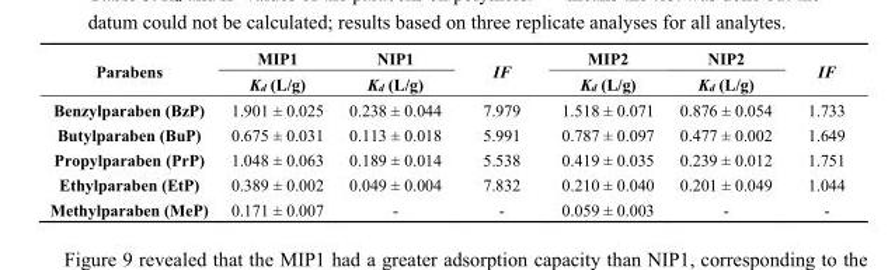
<table><thead><tr><td rowspan="2">Parabens</td><td rowspan="2">MIP1 K<sub>d</sub> (L/g)</td><td rowspan="2">NIP1 K<sub>d</sub> (L/g)</td><td rowspan="2">IF</td><td rowspan="2">MIP2 K<sub>d</sub> (L/g)</td><td rowspan="2">NIP2 K<sub>d</sub> (L/g)</td><td rowspan="2">IF</td></tr><tr></tr></thead><tbody><tr><td>Benzylparaben (BzP)</td><td>1.901 ± 0.025</td><td>0.238 ± 0.044</td><td>7.979</td><td>1.518 ± 0.071</td><td>0.876 ± 0.054</td><td>1.733</td></tr><tr><td>Butylparaben (BuP)</td><td>0.675 ± 0.031</td><td>0.113 ± 0.018</td><td>5.991</td><td>0.787 ± 0.097</td><td>0.477 ± 0.002</td><td>1.649</td></tr><tr><td>Propylparaben (PrP)</td><td>1.048 ± 0.063</td><td>0.189 ± 0.014</td><td>5.538</td><td>0.419 ± 0.035</td><td>0.239 ± 0.012</td><td>1.751</td></tr><tr><td>Ethylparaben (EtP)</td><td>0.389 ± 0.002</td><td>0.049 ± 0.004</td><td>7.832</td><td>0.210 ± 0.040</td><td>0.201 ± 0.049</td><td>1.044</td></tr><tr><td>Methylparaben (MeP)</td><td>0.171 ± 0.007</td><td>-</td><td>-</td><td>0.059 ± 0.003</td><td>-</td><td>-</td></tr></tbody></table>